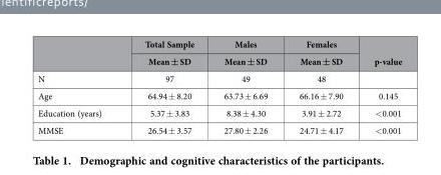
<table><thead><tr><td rowspan="2"></td><td rowspan="2">Total Sample Mean ± SD</td><td rowspan="2">Males Mean ± SD</td><td rowspan="2">Females Mean ± SD</td><td rowspan="2">p-value</td></tr><tr></tr></thead><tbody><tr><td>N</td><td>97</td><td>49</td><td>48</td><td></td></tr><tr><td>Age</td><td>64.94 ± 8.20</td><td>63.73 ± 6.69</td><td>66.16 ± 7.90</td><td>0.145</td></tr><tr><td>Education (years)</td><td>5.37 ± 3.83</td><td>8.38 ± 4.30</td><td>3.91 ± 2.72</td><td>&lt;0.001</td></tr><tr><td>MMSE</td><td>26.54 ± 3.57</td><td>27.80 ± 2.26</td><td>24.71 ± 4.17</td><td>&lt;0.001</td></tr></tbody></table>